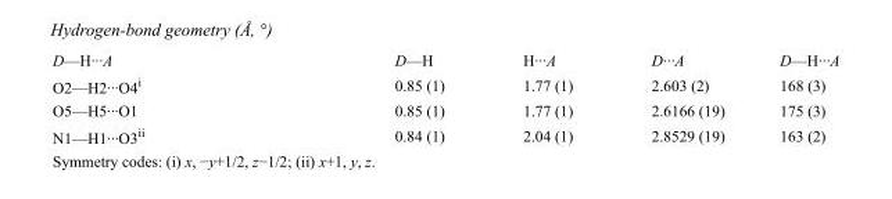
<table><tbody><tr><td>D—H···A</td><td>D—H</td><td>H···A</td><td>D···A</td><td>D—H···A</td></tr><tr><td>O2—H2···O4<sup>i</sup></td><td>0.85 (1)</td><td>1.77 (1)</td><td>2.603 (2)</td><td>168 (3)</td></tr><tr><td>O5—H5···O1</td><td>0.85 (1)</td><td>1.77 (1)</td><td>2.6166 (19)</td><td>175 (3)</td></tr><tr><td>N1—H1···O3<sup>ii</sup></td><td>0.84 (1)</td><td>2.04 (1)</td><td>2.8529 (19)</td><td>163 (2)</td></tr></tbody></table>